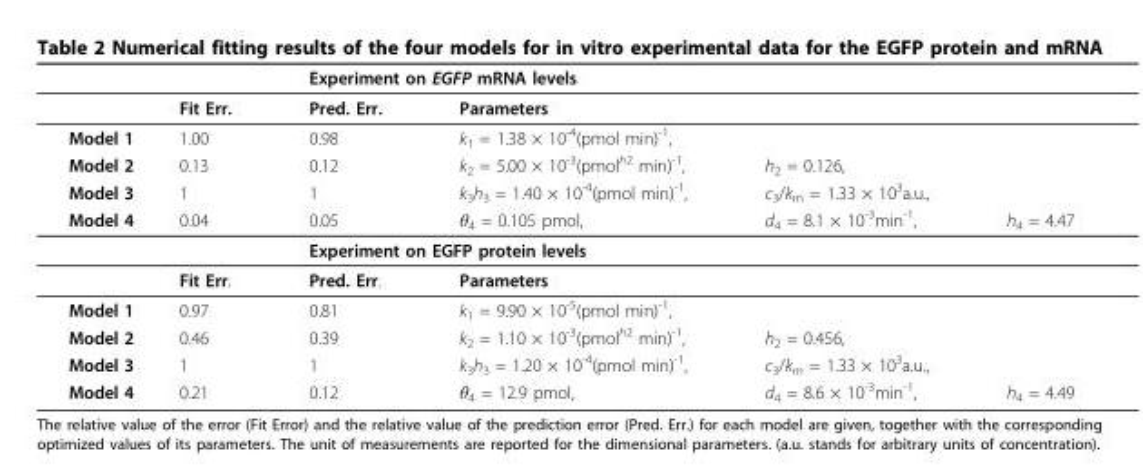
<table><thead><tr><td rowspan="2"></td><td rowspan="2">Fit Err.</td><td colspan="3">Experiment on EGFP mRNA levels</td><td rowspan="2"></td></tr><tr><td>Pred. Err.</td><td>Parameters</td><td></td></tr></thead><tbody><tr><td>Model 1</td><td>1.00</td><td>0.98</td><td>k<sub>1</sub> = 1.38 × 10<sup>-4</sup>(pmol min)<sup>-1</sup>,</td><td></td><td></td></tr><tr><td>Model 2</td><td>0.13</td><td>0.12</td><td>k<sub>2</sub> = 5.00 × 10<sup>-3</sup>(pmol<sup>h2</sup> min)<sup>-1</sup>,</td><td>h<sub>2</sub> = 0.126,</td><td></td></tr><tr><td>Model 3</td><td>1</td><td>1</td><td>k<sub>3</sub>h<sub>3</sub> = 1.40 × 10<sup>-4</sup>(pmol min)<sup>-1</sup>,</td><td>c<sub>3</sub>/k<sub>m</sub> = 1.33 × 10<sup>3</sup>a.u.,</td><td></td></tr><tr><td rowspan="3">Model 4</td><td>0.04</td><td>0.05</td><td>θ<sub>4</sub> = 0.105 pmol,</td><td>d<sub>4</sub> = 8.1 × 10<sup>-3</sup>min<sup>-1</sup>,</td><td>h<sub>4</sub> = 4.47</td></tr><tr><td></td><td colspan="3">Experiment on EGFP protein levels</td><td></td></tr><tr><td>Fit Err.</td><td>Pred. Err.</td><td>Parameters</td><td></td><td></td></tr><tr><td>Model 1</td><td>0.97</td><td>0.81</td><td>k<sub>1</sub> = 9.90 × 10<sup>-5</sup>(pmol min)<sup>-1</sup>,</td><td></td><td></td></tr><tr><td>Model 2</td><td>0.46</td><td>0.39</td><td>k<sub>2</sub> = 1.10 × 10<sup>-3</sup>(pmol<sup>h2</sup> min)<sup>-1</sup>,</td><td>h<sub>2</sub> = 0.456,</td><td></td></tr><tr><td>Model 3</td><td>1</td><td>1</td><td>k<sub>3</sub>h<sub>3</sub> = 1.20 × 10<sup>-4</sup>(pmol min)<sup>-1</sup>,</td><td>c<sub>3</sub>/k<sub>m</sub> = 1.33 × 10<sup>3</sup>a.u.,</td><td></td></tr><tr><td>Model 4</td><td>0.21</td><td>0.12</td><td>θ<sub>4</sub> = 12.9 pmol,</td><td>d<sub>4</sub> = 8.6 × 10<sup>-3</sup>min<sup>-1</sup>,</td><td>h<sub>4</sub> = 4.49</td></tr></tbody></table>